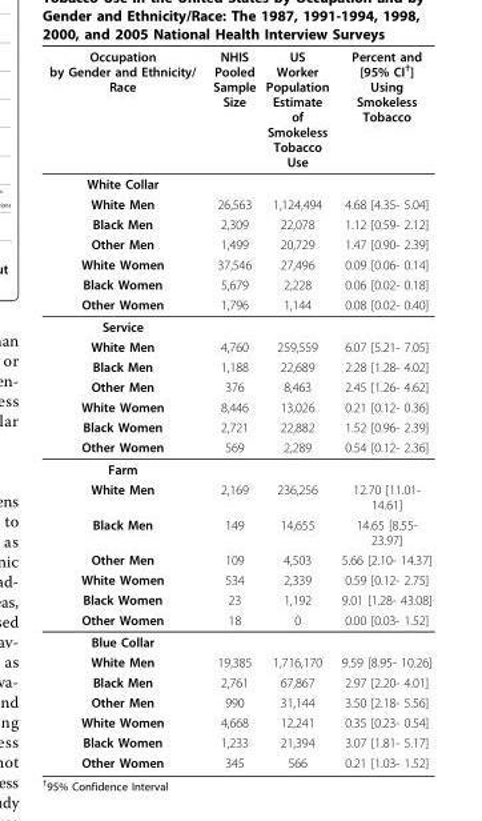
<table><thead><tr><td>Occupation by Gender and Ethnicity/ Race</td><td>NHIS Pooled Sample Size</td><td>US Worker Population Estimate of Smokeless Tobacco Use</td><td>Percent and [95% CI<sup>†</sup>] Using Smokeless Tobacco</td></tr></thead><tbody><tr><td colspan="4">White Collar</td></tr><tr><td>White Men</td><td>26,563</td><td>1,124,494</td><td>4.68 [4.35- 5.04]</td></tr><tr><td>Black Men</td><td>2,309</td><td>22,078</td><td>1.12 [0.59- 2.12]</td></tr><tr><td>Other Men</td><td>1,499</td><td>20,729</td><td>1.47 [0.90- 2.39]</td></tr><tr><td>White Women</td><td>37,546</td><td>27,496</td><td>0.09 [0.06- 0.14]</td></tr><tr><td>Black Women</td><td>5,679</td><td>2,228</td><td>0.06 [0.02- 0.18]</td></tr><tr><td>Other Women</td><td>1,796</td><td>1,144</td><td>0.08 [0.02- 0.40]</td></tr><tr><td colspan="4">Service</td></tr><tr><td>White Men</td><td>4,760</td><td>259,559</td><td>6.07 [5.21- 7.05]</td></tr><tr><td>Black Men</td><td>1,188</td><td>22,689</td><td>2.28 [1.28- 4.02]</td></tr><tr><td>Other Men</td><td>376</td><td>8,463</td><td>2.45 [1.26- 4.62]</td></tr><tr><td>White Women</td><td>8,446</td><td>13,026</td><td>0.21 [0.12- 0.36]</td></tr><tr><td>Black Women</td><td>2,721</td><td>22,882</td><td>1.52 [0.96- 2.39]</td></tr><tr><td>Other Women</td><td>569</td><td>2,289</td><td>0.54 [0.12- 2.36]</td></tr><tr><td colspan="4">Farm</td></tr><tr><td>White Men</td><td>2,169</td><td>236,256</td><td>12.70 [11.01- 14.61]</td></tr><tr><td>Black Men</td><td>149</td><td>14,655</td><td>14.65 [8.55- 23.97]</td></tr><tr><td>Other Men</td><td>109</td><td>4,503</td><td>5.66 [2.10- 14.37]</td></tr><tr><td>White Women</td><td>534</td><td>2,339</td><td>0.59 [0.12- 2.75]</td></tr><tr><td>Black Women</td><td>23</td><td>1,192</td><td>9.01 [1.28- 43.08]</td></tr><tr><td>Other Women</td><td>18</td><td>0</td><td>0.00 [0.03- 1.52]</td></tr><tr><td colspan="4">Blue Collar</td></tr><tr><td>White Men</td><td>19,385</td><td>1,716,170</td><td>9.59 [8.95- 10.26]</td></tr><tr><td>Black Men</td><td>2,761</td><td>67,867</td><td>2.97 [2.20- 4.01]</td></tr><tr><td>Other Men</td><td>990</td><td>31,144</td><td>3.50 [2.18- 5.56]</td></tr><tr><td>White Women</td><td>4,668</td><td>12,241</td><td>0.35 [0.23- 0.54]</td></tr><tr><td>Black Women</td><td>1,233</td><td>21,394</td><td>3.07 [1.81- 5.17]</td></tr><tr><td>Other Women</td><td>345</td><td>566</td><td>0.21 [1.03- 1.52]</td></tr></tbody></table>